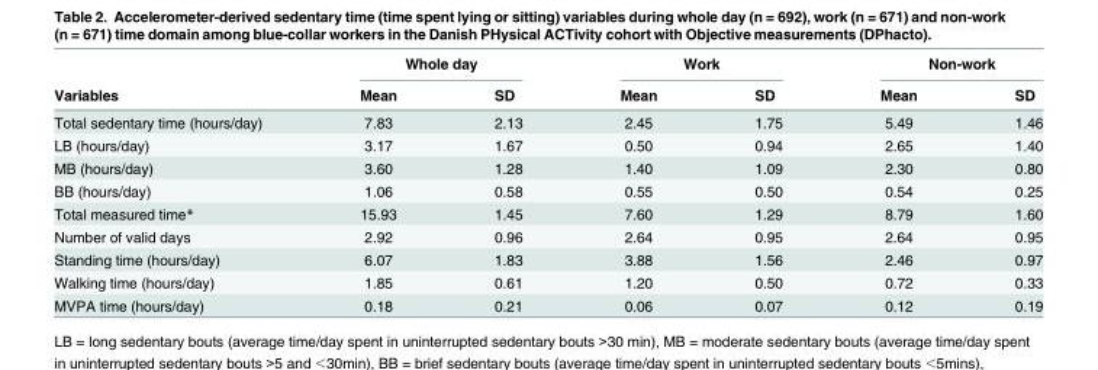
<table><thead><tr><td rowspan="2">Variables</td><td colspan="2">Whole day</td><td colspan="2">Work</td><td colspan="2">Non-work</td></tr><tr><td>Mean</td><td>SD</td><td>Mean</td><td>SD</td><td>Mean</td><td>SD</td></tr></thead><tbody><tr><td>Total sedentary time (hours/day)</td><td>7.83</td><td>2.13</td><td>2.45</td><td>1.75</td><td>5.49</td><td>1.46</td></tr><tr><td>LB (hours/day)</td><td>3.17</td><td>1.67</td><td>0.50</td><td>0.94</td><td>2.65</td><td>1.40</td></tr><tr><td>MB (hours/day)</td><td>3.60</td><td>1.28</td><td>1.40</td><td>1.09</td><td>2.30</td><td>0.80</td></tr><tr><td>BB (hours/day)</td><td>1.06</td><td>0.58</td><td>0.55</td><td>0.50</td><td>0.54</td><td>0.25</td></tr><tr><td>Total measured time*</td><td>15.93</td><td>1.45</td><td>7.60</td><td>1.29</td><td>8.79</td><td>1.60</td></tr><tr><td>Number of valid days</td><td>2.92</td><td>0.96</td><td>2.64</td><td>0.95</td><td>2.64</td><td>0.95</td></tr><tr><td>Standing time (hours/day)</td><td>6.07</td><td>1.83</td><td>3.88</td><td>1.56</td><td>2.46</td><td>0.97</td></tr><tr><td>Walking time (hours/day)</td><td>1.85</td><td>0.61</td><td>1.20</td><td>0.50</td><td>0.72</td><td>0.33</td></tr><tr><td>MVPA time (hours/day)</td><td>0.18</td><td>0.21</td><td>0.06</td><td>0.07</td><td>0.12</td><td>0.19</td></tr></tbody></table>